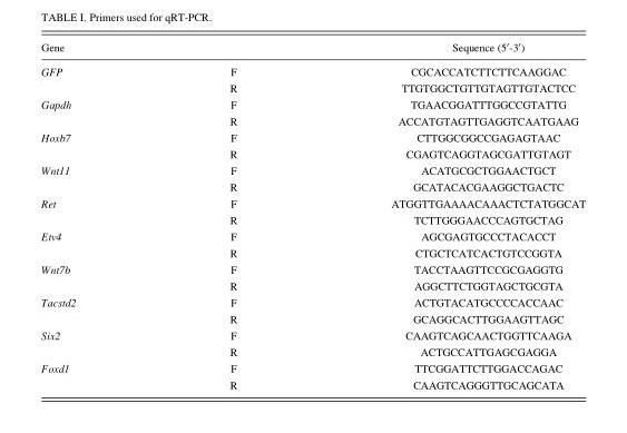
<table><thead><tr><td>Gene</td><td></td><td>Sequence (5′-3′)</td></tr></thead><tbody><tr><td rowspan="2">GFP</td><td>F</td><td>CGCACCATCTTCTTCAAGGAC</td></tr><tr><td>R</td><td>TTGTGGCTGTTGTAGTTGTACTCC</td></tr><tr><td rowspan="2">Gapdh</td><td>F</td><td>TGAACGGATTTGGCCGTATTG</td></tr><tr><td>R</td><td>ACCATGTAGTTGAGGTCAATGAAG</td></tr><tr><td rowspan="2">Hoxb7</td><td>F</td><td>CTTGGCGGCCGAGAGTAAC</td></tr><tr><td>R</td><td>CGAGTCAGGTAGCGATTGTAGT</td></tr><tr><td rowspan="2">Wnt11</td><td>F</td><td>ACATGCGCTGGAACTGCT</td></tr><tr><td>R</td><td>GCATACACGAAGGCTGACTC</td></tr><tr><td rowspan="2">Ret</td><td>F</td><td>ATGGTTGAAAACAAACTCTATGGCAT</td></tr><tr><td>R</td><td>TCTTGGGAACCCAGTGCTAG</td></tr><tr><td rowspan="2">Etv4</td><td>F</td><td>AGCGAGTGCCCTACACCT</td></tr><tr><td>R</td><td>CTGCTCATCACTGTCCGGTA</td></tr><tr><td rowspan="2">Wnt7b</td><td>F</td><td>TACCTAAGTTCCGCGAGGTG</td></tr><tr><td>R</td><td>AGGCTTCTGGTAGCTGCGTA</td></tr><tr><td rowspan="2">Tacstd2</td><td>F</td><td>ACTGTACATGCCCCACCAAC</td></tr><tr><td>R</td><td>GCAGGCACTTGGAAGTTAGC</td></tr><tr><td rowspan="2">Six2</td><td>F</td><td>CAAGTCAGCAACTGGTTCAAGA</td></tr><tr><td>R</td><td>ACTGCCATTGAGCGAGGA</td></tr><tr><td rowspan="2">Foxd1</td><td>F</td><td>TTCGGATTCTTGGACCAGAC</td></tr><tr><td>R</td><td>CAAGTCAGGGTTGCAGCATA</td></tr></tbody></table>